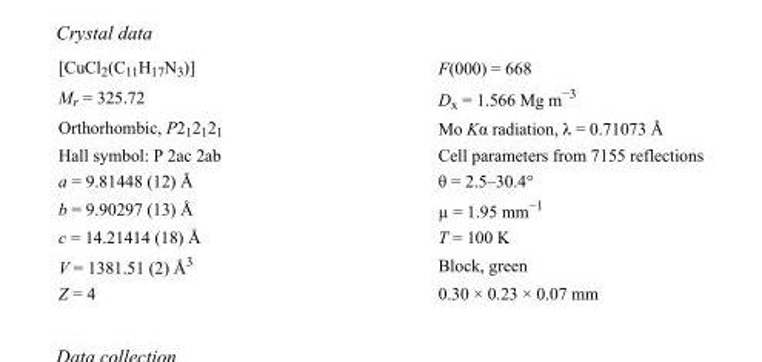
<table><tbody><tr><td>[CuCl<sub>2</sub>(C<sub>11</sub>H<sub>17</sub>N<sub>3</sub>)]</td><td>F(000) = 668</td></tr><tr><td>M<sub>r</sub> = 325.72</td><td>D<sub>x</sub> = 1.566 Mg m<sup>−3</sup></td></tr><tr><td>Orthorhombic, P2<sub>1</sub>2<sub>1</sub>2<sub>1</sub></td><td>Mo Kα radiation, λ = 0.71073 Å</td></tr><tr><td>Hall symbol: P 2ac 2ab</td><td>Cell parameters from 7155 reflections</td></tr><tr><td>a = 9.81448 (12) Å</td><td>θ = 2.5–30.4°</td></tr><tr><td>b = 9.90297 (13) Å</td><td>µ = 1.95 mm<sup>−1</sup></td></tr><tr><td>c = 14.21414 (18) Å</td><td>T = 100 K</td></tr><tr><td>V = 1381.51 (2) Å<sup>3</sup></td><td>Block, green</td></tr><tr><td>Z = 4</td><td>0.30 × 0.23 × 0.07 mm</td></tr></tbody></table>